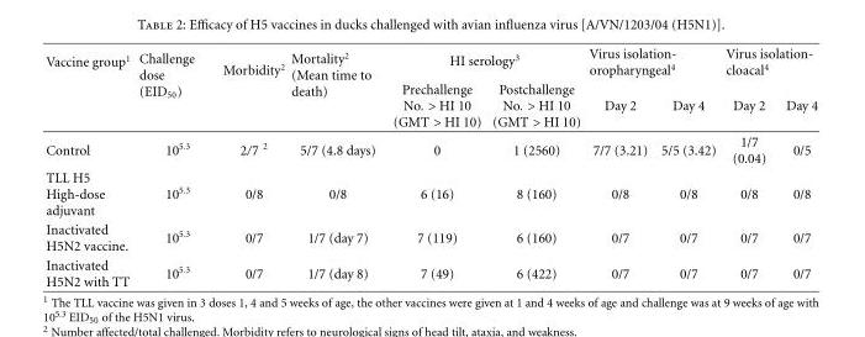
<table><thead><tr><td rowspan="2">Vaccine group<sup>1</sup></td><td rowspan="2">Challenge dose (EID<sub>50</sub>)</td><td rowspan="2">Morbidity<sup>2</sup></td><td rowspan="2">Mortality<sup>2</sup> (Mean time to death)</td><td colspan="2">HI serology<sup>3</sup></td><td colspan="2">Virus isolation- oropharyngeal<sup>4</sup></td><td colspan="2">Virus isolation- cloacal<sup>4</sup></td></tr><tr><td>Prechallenge No. &gt; HI 10 (GMT &gt; HI 10)</td><td>Postchallenge No. &gt; HI 10 (GMT &gt; HI 10)</td><td>Day 2</td><td>Day 4</td><td>Day 2</td><td>Day 4</td></tr></thead><tbody><tr><td>Control</td><td>10<sup>5.3</sup></td><td>2/7 <sup>2</sup></td><td>5/7 (4.8 days)</td><td>0</td><td>1 (2560)</td><td>7/7 (3.21)</td><td>5/5 (3.42)</td><td>1/7 (0.04)</td><td>0/5</td></tr><tr><td>TLL H5 High-dose adjuvant</td><td>10<sup>5.3</sup></td><td>0/8</td><td>0/8</td><td>6 (16)</td><td>8 (160)</td><td>0/8</td><td>0/8</td><td>0/8</td><td>0/8</td></tr><tr><td>Inactivated H5N2 vaccine.</td><td>10<sup>5.3</sup></td><td>0/7</td><td>1/7 (day 7)</td><td>7 (119)</td><td>6 (160)</td><td>0/7</td><td>0/7</td><td>0/7</td><td>0/7</td></tr><tr><td>Inactivated H5N2 with TT</td><td>10<sup>5.3</sup></td><td>0/7</td><td>1/7 (day 8)</td><td>7 (49)</td><td>6 (422)</td><td>0/7</td><td>0/7</td><td>0/7</td><td>0/7</td></tr></tbody></table>